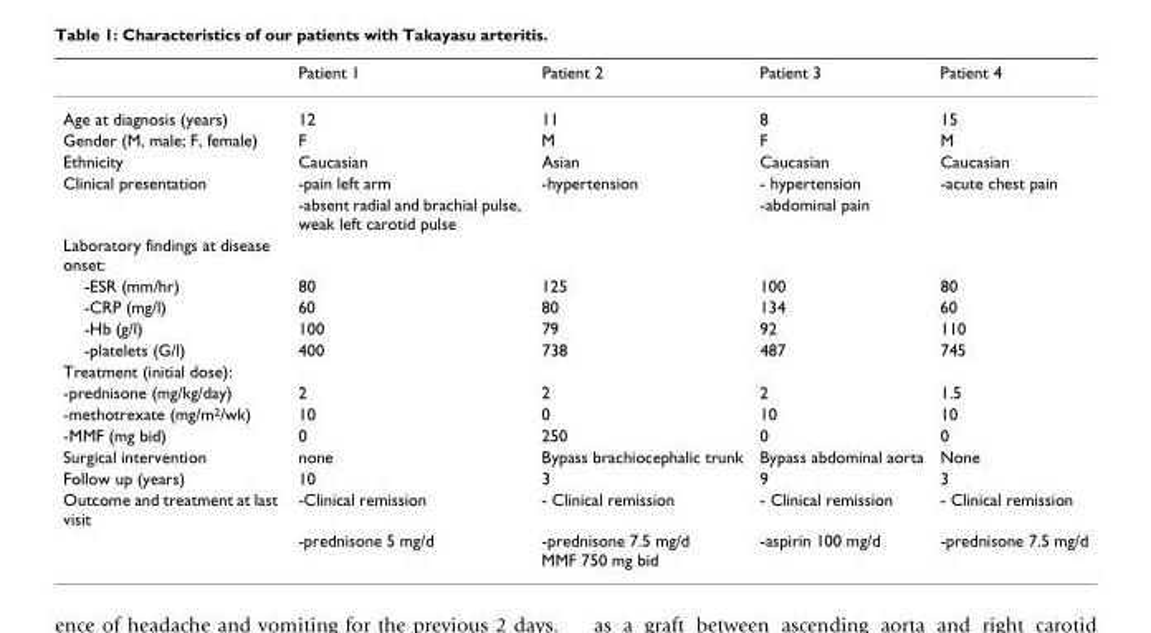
<table><thead><tr><td></td><td>Patient 1</td><td>Patient 2</td><td>Patient 3</td><td>Patient 4</td></tr></thead><tbody><tr><td>Age at diagnosis (years)</td><td>12</td><td>11</td><td>8</td><td>15</td></tr><tr><td>Gender (M, male; F, female)</td><td>F</td><td>M</td><td>F</td><td>M</td></tr><tr><td>Ethnicity</td><td>Caucasian</td><td>Asian</td><td>Caucasian</td><td>Caucasian</td></tr><tr><td rowspan="2">Clinical presentation</td><td>-pain left arm</td><td>-hypertension</td><td>- hypertension</td><td>-acute chest pain</td></tr><tr><td>-absent radial and brachial pulse, weak left carotid pulse</td><td></td><td>-abdominal pain</td><td></td></tr><tr><td colspan="5">Laboratory findings at disease onset:</td></tr><tr><td>-ESR (mm/hr)</td><td>80</td><td>125</td><td>100</td><td>80</td></tr><tr><td>-CRP (mg/l)</td><td>60</td><td>80</td><td>134</td><td>60</td></tr><tr><td>-Hb (g/l)</td><td>100</td><td>79</td><td>92</td><td>110</td></tr><tr><td>-platelets (G/l)</td><td>400</td><td>738</td><td>487</td><td>745</td></tr><tr><td colspan="5">Treatment (initial dose):</td></tr><tr><td>-prednisone (mg/kg/day)</td><td>2</td><td>2</td><td>2</td><td>1.5</td></tr><tr><td>-methotrexate (mg/m<sup>2</sup>/wk)</td><td>10</td><td>0</td><td>10</td><td>10</td></tr><tr><td>-MMF (mg bid)</td><td>0</td><td>250</td><td>0</td><td>0</td></tr><tr><td>Surgical intervention</td><td>none</td><td>Bypass brachiocephalic trunk</td><td>Bypass abdominal aorta</td><td>None</td></tr><tr><td>Follow up (years)</td><td>10</td><td>3</td><td>9</td><td>3</td></tr><tr><td rowspan="2">Outcome and treatment at last visit</td><td>-Clinical remission</td><td>- Clinical remission</td><td>- Clinical remission</td><td>- Clinical remission</td></tr><tr><td>-prednisone 5 mg/d</td><td>-prednisone 7.5 mg/d MMF 750 mg bid</td><td>-aspirin 100 mg/d</td><td>-prednisone 7.5 mg/d</td></tr></tbody></table>